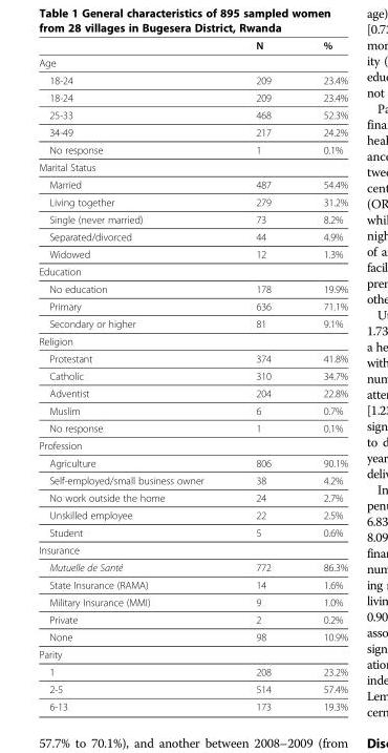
<table><thead><tr><td rowspan="2">Age</td><td rowspan="2">N</td><td rowspan="2">%</td></tr><tr></tr></thead><tbody><tr><td>18-24</td><td>209</td><td>23.4%</td></tr><tr><td>18-24</td><td>209</td><td>23.4%</td></tr><tr><td>25-33</td><td>468</td><td>52.3%</td></tr><tr><td>34-49</td><td>217</td><td>24.2%</td></tr><tr><td>No response</td><td>1</td><td>0.1%</td></tr><tr><td colspan="3">Marital Status</td></tr><tr><td>Married</td><td>487</td><td>54.4%</td></tr><tr><td>Living together</td><td>279</td><td>31.2%</td></tr><tr><td>Single (never married)</td><td>73</td><td>8.2%</td></tr><tr><td>Separated/divorced</td><td>44</td><td>4.9%</td></tr><tr><td>Widowed</td><td>12</td><td>1.3%</td></tr><tr><td colspan="3">Education</td></tr><tr><td>No education</td><td>178</td><td>19.9%</td></tr><tr><td>Primary</td><td>636</td><td>71.1%</td></tr><tr><td>Secondary or higher</td><td>81</td><td>9.1%</td></tr><tr><td colspan="3">Religion</td></tr><tr><td>Protestant</td><td>374</td><td>41.8%</td></tr><tr><td>Catholic</td><td>310</td><td>34.7%</td></tr><tr><td>Adventist</td><td>204</td><td>22.8%</td></tr><tr><td>Muslim</td><td>6</td><td>0.7%</td></tr><tr><td>No response</td><td>1</td><td>0.1%</td></tr><tr><td colspan="3">Profession</td></tr><tr><td>Agriculture</td><td>806</td><td>90.1%</td></tr><tr><td>Self-employed/small business owner</td><td>38</td><td>4.2%</td></tr><tr><td>No work outside the home</td><td>24</td><td>2.7%</td></tr><tr><td>Unskilled employee</td><td>22</td><td>2.5%</td></tr><tr><td>Student</td><td>5</td><td>0.6%</td></tr><tr><td colspan="3">Insurance</td></tr><tr><td>Mutuelle de Santé</td><td>772</td><td>86.3%</td></tr><tr><td>State Insurance (RAMA)</td><td>14</td><td>1.6%</td></tr><tr><td>Military Insurance (MMI)</td><td>9</td><td>1.0%</td></tr><tr><td>Private</td><td>2</td><td>0.2%</td></tr><tr><td>None</td><td>98</td><td>10.9%</td></tr><tr><td colspan="3">Parity</td></tr><tr><td>1</td><td>208</td><td>23.2%</td></tr><tr><td>2-5</td><td>514</td><td>57.4%</td></tr><tr><td>6-13</td><td>173</td><td>19.3%</td></tr></tbody></table>